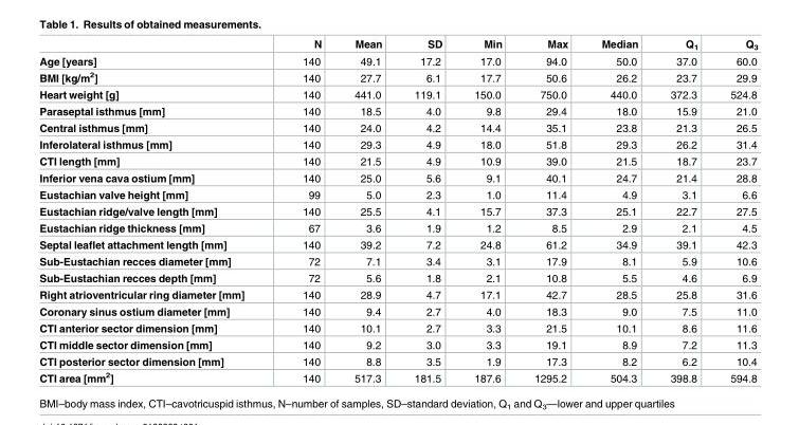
<table><thead><tr><td></td><td>N</td><td>Mean</td><td>SD</td><td>Min</td><td>Max</td><td>Median</td><td>Q<sub>1</sub></td><td>Q<sub>3</sub></td></tr></thead><tbody><tr><td>Age [years]</td><td>140</td><td>49.1</td><td>17.2</td><td>17.0</td><td>94.0</td><td>50.0</td><td>37.0</td><td>60.0</td></tr><tr><td>BMI [kg/m<sup>2</sup>]</td><td>140</td><td>27.7</td><td>6.1</td><td>17.7</td><td>50.6</td><td>26.2</td><td>23.7</td><td>29.9</td></tr><tr><td>Heart weight [g]</td><td>140</td><td>441.0</td><td>119.1</td><td>150.0</td><td>750.0</td><td>440.0</td><td>372.3</td><td>524.8</td></tr><tr><td>Paraseptal isthmus [mm]</td><td>140</td><td>18.5</td><td>4.0</td><td>9.8</td><td>29.4</td><td>18.0</td><td>15.9</td><td>21.0</td></tr><tr><td>Central isthmus [mm]</td><td>140</td><td>24.0</td><td>4.2</td><td>14.4</td><td>35.1</td><td>23.8</td><td>21.3</td><td>26.5</td></tr><tr><td>Inferolateral isthmus [mm]</td><td>140</td><td>29.3</td><td>4.9</td><td>18.0</td><td>51.8</td><td>29.3</td><td>26.2</td><td>31.4</td></tr><tr><td>CTI length [mm]</td><td>140</td><td>21.5</td><td>4.9</td><td>10.9</td><td>39.0</td><td>21.5</td><td>18.7</td><td>23.7</td></tr><tr><td>Inferior vena cava ostium [mm]</td><td>140</td><td>25.0</td><td>5.6</td><td>9.1</td><td>40.1</td><td>24.7</td><td>21.4</td><td>28.8</td></tr><tr><td>Eustachian valve height [mm]</td><td>99</td><td>5.0</td><td>2.3</td><td>1.0</td><td>11.4</td><td>4.9</td><td>3.1</td><td>6.6</td></tr><tr><td>Eustachian ridge/valve length [mm]</td><td>140</td><td>25.5</td><td>4.1</td><td>15.7</td><td>37.3</td><td>25.1</td><td>22.7</td><td>27.5</td></tr><tr><td>Eustachian ridge thickness [mm]</td><td>67</td><td>3.6</td><td>1.9</td><td>1.2</td><td>8.5</td><td>2.9</td><td>2.1</td><td>4.5</td></tr><tr><td>Septal leaflet attachment length [mm]</td><td>140</td><td>39.2</td><td>7.2</td><td>24.8</td><td>61.2</td><td>34.9</td><td>39.1</td><td>42.3</td></tr><tr><td>Sub-Eustachian recces diameter [mm]</td><td>72</td><td>7.1</td><td>3.4</td><td>3.1</td><td>17.9</td><td>8.1</td><td>5.9</td><td>10.6</td></tr><tr><td>Sub-Eustachian recces depth [mm]</td><td>72</td><td>5.6</td><td>1.8</td><td>2.1</td><td>10.8</td><td>5.5</td><td>4.6</td><td>6.9</td></tr><tr><td>Right atrioventricular ring diameter [mm]</td><td>140</td><td>28.9</td><td>4.7</td><td>17.1</td><td>42.7</td><td>28.5</td><td>25.8</td><td>31.6</td></tr><tr><td>Coronary sinus ostium diameter [mm]</td><td>140</td><td>9.4</td><td>2.7</td><td>4.0</td><td>18.3</td><td>9.0</td><td>7.5</td><td>11.0</td></tr><tr><td>CTI anterior sector dimension [mm]</td><td>140</td><td>10.1</td><td>2.7</td><td>3.3</td><td>21.5</td><td>10.1</td><td>8.6</td><td>11.6</td></tr><tr><td>CTI middle sector dimension [mm]</td><td>140</td><td>9.2</td><td>3.0</td><td>3.3</td><td>19.1</td><td>8.9</td><td>7.2</td><td>11.3</td></tr><tr><td>CTI posterior sector dimension [mm]</td><td>140</td><td>8.8</td><td>3.5</td><td>1.9</td><td>17.3</td><td>8.2</td><td>6.2</td><td>10.4</td></tr><tr><td>CTI area [mm<sup>2</sup>]</td><td>140</td><td>517.3</td><td>181.5</td><td>187.6</td><td>1295.2</td><td>504.3</td><td>398.8</td><td>594.8</td></tr></tbody></table>